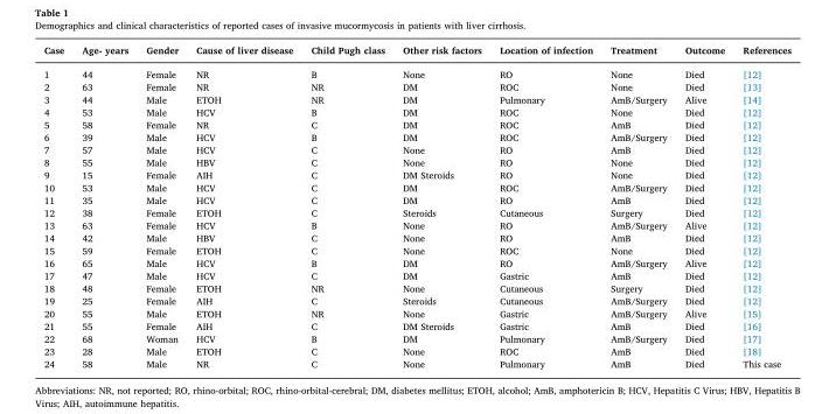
<table><thead><tr><td>Case</td><td>Age- years</td><td>Gender</td><td>Cause of liver disease</td><td>Child Pugh class</td><td>Other risk factors</td><td>Location of infection</td><td>Treatment</td><td>Outcome</td><td>References</td></tr></thead><tbody><tr><td>1</td><td>44</td><td>Female</td><td>NR</td><td>B</td><td>None</td><td>RO</td><td>None</td><td>Died</td><td>[12]</td></tr><tr><td>2</td><td>63</td><td>Female</td><td>NR</td><td>NR</td><td>DM</td><td>ROC</td><td>None</td><td>Died</td><td>[13]</td></tr><tr><td>3</td><td>44</td><td>Male</td><td>ETOH</td><td>NR</td><td>DM</td><td>Pulmonary</td><td>AmB/Surgery</td><td>Alive</td><td>[14]</td></tr><tr><td>4</td><td>53</td><td>Male</td><td>HCV</td><td>B</td><td>DM</td><td>ROC</td><td>None</td><td>Died</td><td>[12]</td></tr><tr><td>5</td><td>58</td><td>Female</td><td>NR</td><td>C</td><td>DM</td><td>ROC</td><td>AmB</td><td>Died</td><td>[12]</td></tr><tr><td>6</td><td>39</td><td>Male</td><td>HCV</td><td>B</td><td>DM</td><td>ROC</td><td>AmB/Surgery</td><td>Died</td><td>[12]</td></tr><tr><td>7</td><td>57</td><td>Male</td><td>HCV</td><td>C</td><td>None</td><td>RO</td><td>AmB</td><td>Died</td><td>[12]</td></tr><tr><td>8</td><td>55</td><td>Male</td><td>HBV</td><td>C</td><td>None</td><td>RO</td><td>None</td><td>Died</td><td>[12]</td></tr><tr><td>9</td><td>15</td><td>Female</td><td>AIH</td><td>C</td><td>DM Steroids</td><td>RO</td><td>None</td><td>Died</td><td>[12]</td></tr><tr><td>10</td><td>53</td><td>Male</td><td>HCV</td><td>C</td><td>DM</td><td>ROC</td><td>AmB/Surgery</td><td>Died</td><td>[12]</td></tr><tr><td>11</td><td>35</td><td>Male</td><td>HCV</td><td>C</td><td>DM</td><td>RO</td><td>AmB</td><td>Died</td><td>[12]</td></tr><tr><td>12</td><td>38</td><td>Female</td><td>ETOH</td><td>C</td><td>Steroids</td><td>Cutaneous</td><td>Surgery</td><td>Died</td><td>[12]</td></tr><tr><td>13</td><td>63</td><td>Female</td><td>HCV</td><td>B</td><td>None</td><td>RO</td><td>AmB/Surgery</td><td>Alive</td><td>[12]</td></tr><tr><td>14</td><td>42</td><td>Male</td><td>HBV</td><td>C</td><td>None</td><td>RO</td><td>AmB</td><td>Died</td><td>[12]</td></tr><tr><td>15</td><td>59</td><td>Female</td><td>ETOH</td><td>C</td><td>None</td><td>ROC</td><td>None</td><td>Died</td><td>[12]</td></tr><tr><td>16</td><td>65</td><td>Male</td><td>HCV</td><td>B</td><td>DM</td><td>RO</td><td>AmB/Surgery</td><td>Alive</td><td>[12]</td></tr><tr><td>17</td><td>47</td><td>Male</td><td>HCV</td><td>C</td><td>DM</td><td>Gastric</td><td>AmB</td><td>Died</td><td>[12]</td></tr><tr><td>18</td><td>48</td><td>Female</td><td>ETOH</td><td>NR</td><td>None</td><td>Cutaneous</td><td>Surgery</td><td>Died</td><td>[12]</td></tr><tr><td>19</td><td>25</td><td>Female</td><td>AIH</td><td>C</td><td>Steroids</td><td>Cutaneous</td><td>AmB/Surgery</td><td>Died</td><td>[12]</td></tr><tr><td>20</td><td>55</td><td>Male</td><td>ETOH</td><td>NR</td><td>None</td><td>Gastric</td><td>AmB/Surgery</td><td>Alive</td><td>[15]</td></tr><tr><td>21</td><td>55</td><td>Female</td><td>AIH</td><td>C</td><td>DM Steroids</td><td>Gastric</td><td>AmB</td><td>Died</td><td>[16]</td></tr><tr><td>22</td><td>68</td><td>Woman</td><td>HCV</td><td>B</td><td>DM</td><td>Pulmonary</td><td>AmB/Surgery</td><td>Died</td><td>[17]</td></tr><tr><td>23</td><td>28</td><td>Male</td><td>ETOH</td><td>C</td><td>None</td><td>ROC</td><td>AmB</td><td>Died</td><td>[18]</td></tr><tr><td>24</td><td>58</td><td>Male</td><td>NR</td><td>C</td><td>None</td><td>Pulmonary</td><td>AmB</td><td>Died</td><td>This case</td></tr></tbody></table>